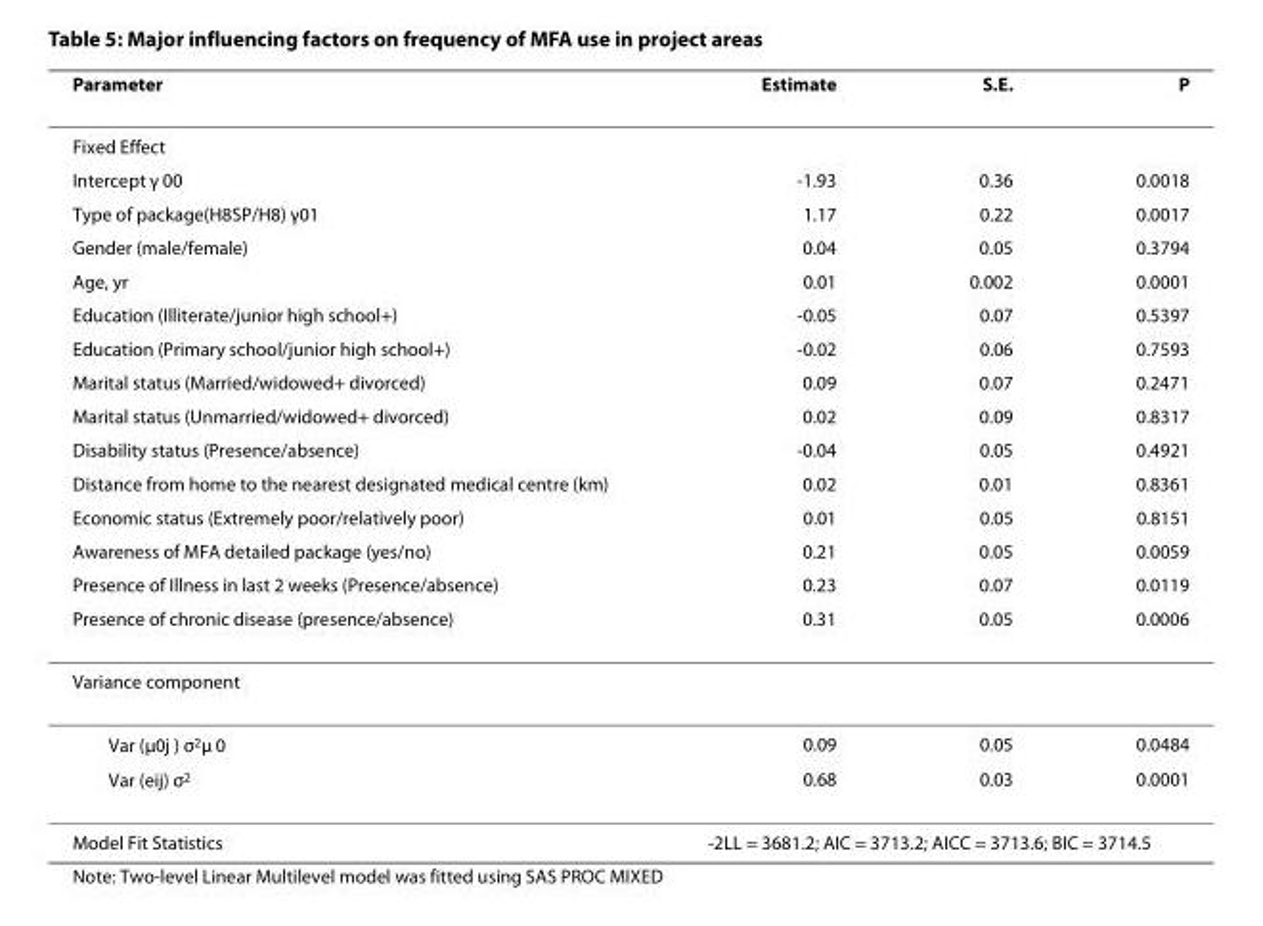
<table><thead><tr><td>Parameter</td><td>Estimate</td><td>S.E.</td><td>P</td></tr></thead><tbody><tr><td colspan="4">Fixed Effect</td></tr><tr><td>Intercept γ 00</td><td>-1.93</td><td>0.36</td><td>0.0018</td></tr><tr><td>Type of package(H8SP/H8) γ01</td><td>1.17</td><td>0.22</td><td>0.0017</td></tr><tr><td>Gender (male/female)</td><td>0.04</td><td>0.05</td><td>0.3794</td></tr><tr><td>Age, yr</td><td>0.01</td><td>0.002</td><td>0.0001</td></tr><tr><td>Education (Illiterate/junior high school+)</td><td>-0.05</td><td>0.07</td><td>0.5397</td></tr><tr><td>Education (Primary school/junior high school+)</td><td>-0.02</td><td>0.06</td><td>0.7593</td></tr><tr><td>Marital status (Married/widowed+ divorced)</td><td>0.09</td><td>0.07</td><td>0.2471</td></tr><tr><td>Marital status (Unmarried/widowed+ divorced)</td><td>0.02</td><td>0.09</td><td>0.8317</td></tr><tr><td>Disability status (Presence/absence)</td><td>-0.04</td><td>0.05</td><td>0.4921</td></tr><tr><td>Distance from home to the nearest designated medical centre (km)</td><td>0.02</td><td>0.01</td><td>0.8361</td></tr><tr><td>Economic status (Extremely poor/relatively poor)</td><td>0.01</td><td>0.05</td><td>0.8151</td></tr><tr><td>Awareness of MFA detailed package (yes/no)</td><td>0.21</td><td>0.05</td><td>0.0059</td></tr><tr><td>Presence of Illness in last 2 weeks (Presence/absence)</td><td>0.23</td><td>0.07</td><td>0.0119</td></tr><tr><td>Presence of chronic disease (presence/absence)</td><td>0.31</td><td>0.05</td><td>0.0006</td></tr><tr><td colspan="4">Variance component</td></tr><tr><td>Var (μ0j ) σ<sup>2</sup>μ 0</td><td>0.09</td><td>0.05</td><td>0.0484</td></tr><tr><td>Var (eij) σ<sup>2</sup></td><td>0.68</td><td>0.03</td><td>0.0001</td></tr><tr><td>Model Fit Statistics</td><td colspan="3">-2LL = 3681.2; AIC = 3713.2; AICC = 3713.6; BIC = 3714.5</td></tr></tbody></table>